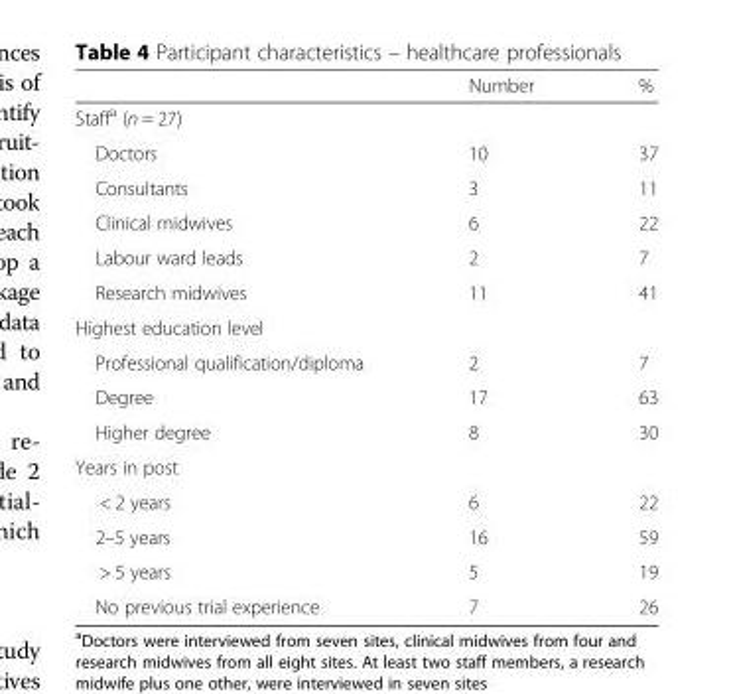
<table><thead><tr><td></td><td>Number</td><td>%</td></tr></thead><tbody><tr><td colspan="3">Staff<sup>a</sup> (n = 27)</td></tr><tr><td>Doctors</td><td>10</td><td>37</td></tr><tr><td>Consultants</td><td>3</td><td>11</td></tr><tr><td>Clinical midwives</td><td>6</td><td>22</td></tr><tr><td>Labour ward leads</td><td>2</td><td>7</td></tr><tr><td>Research midwives</td><td>11</td><td>41</td></tr><tr><td colspan="3">Highest education level</td></tr><tr><td>Professional qualification/diploma</td><td>2</td><td>7</td></tr><tr><td>Degree</td><td>17</td><td>63</td></tr><tr><td>Higher degree</td><td>8</td><td>30</td></tr><tr><td colspan="3">Years in post</td></tr><tr><td>&lt; 2 years</td><td>6</td><td>22</td></tr><tr><td>2–5 years</td><td>16</td><td>59</td></tr><tr><td>&gt; 5 years</td><td>5</td><td>19</td></tr><tr><td>No previous trial experience</td><td>7</td><td>26</td></tr></tbody></table>